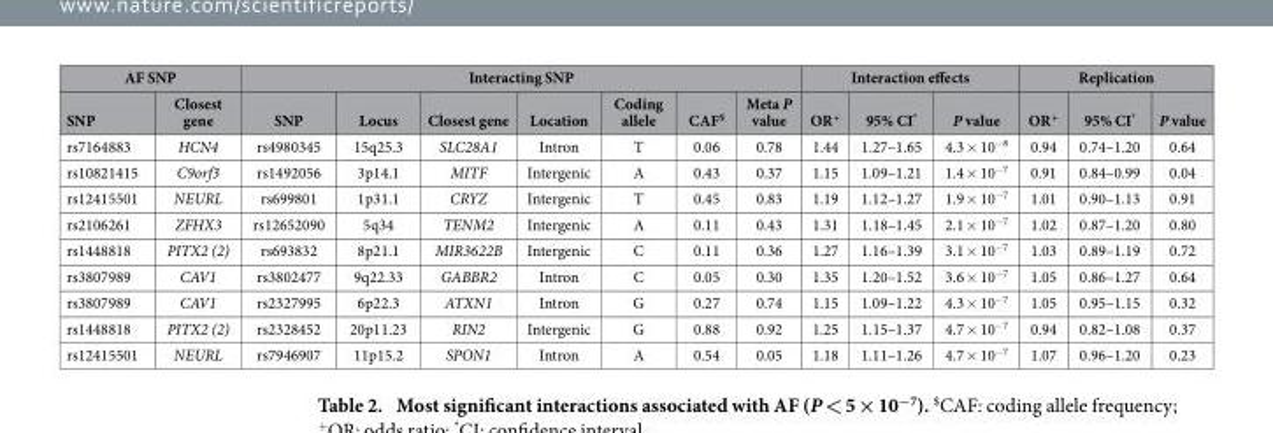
<table><thead><tr><td colspan="2">AF SNP</td><td colspan="7">Interacting SNP</td><td colspan="3">Interaction effects</td><td colspan="3">Replication</td></tr><tr><td>SNP</td><td>Closest gene</td><td>SNP</td><td>Locus</td><td>Closest gene</td><td>Location</td><td>Coding allele</td><td>CAF$</td><td>Meta P value</td><td>OR<sup>+</sup></td><td>95% CI*</td><td>P value</td><td>OR<sup>+</sup></td><td>95% CI*</td><td>P value</td></tr></thead><tbody><tr><td>rs7164883</td><td>HCN4</td><td>rs4980345</td><td>15q25.3</td><td>SLC28A1</td><td>Intron</td><td>T</td><td>0.06</td><td>0.78</td><td>1.44</td><td>1.27–1.65</td><td>4.3 × 10<sup>−8</sup></td><td>0.94</td><td>0.74–1.20</td><td>0.64</td></tr><tr><td>rs10821415</td><td>C9orf3</td><td>rs1492056</td><td>3p14.1</td><td>MITF</td><td>Intergenic</td><td>A</td><td>0.43</td><td>0.37</td><td>1.15</td><td>1.09–1.21</td><td>1.4 × 10<sup>−7</sup></td><td>0.91</td><td>0.84–0.99</td><td>0.04</td></tr><tr><td>rs12415501</td><td>NEURL</td><td>rs699801</td><td>1p31.1</td><td>CRYZ</td><td>Intergenic</td><td>T</td><td>0.45</td><td>0.83</td><td>1.19</td><td>1.12–1.27</td><td>1.9 × 10<sup>−7</sup></td><td>1.01</td><td>0.90–1.13</td><td>0.91</td></tr><tr><td>rs2106261</td><td>ZFHX3</td><td>rs12652090</td><td>5q34</td><td>TENM2</td><td>Intergenic</td><td>A</td><td>0.11</td><td>0.43</td><td>1.31</td><td>1.18–1.45</td><td>2.1 × 10<sup>−7</sup></td><td>1.02</td><td>0.87–1.20</td><td>0.80</td></tr><tr><td>rs1448818</td><td>PITX2 (2)</td><td>rs693832</td><td>8p21.1</td><td>MIR3622B</td><td>Intergenic</td><td>C</td><td>0.11</td><td>0.36</td><td>1.27</td><td>1.16–1.39</td><td>3.1 × 10<sup>−7</sup></td><td>1.03</td><td>0.89–1.19</td><td>0.72</td></tr><tr><td>rs3807989</td><td>CAV1</td><td>rs3802477</td><td>9q22.33</td><td>GABBR2</td><td>Intron</td><td>C</td><td>0.05</td><td>0.30</td><td>1.35</td><td>1.20–1.52</td><td>3.6 × 10<sup>−7</sup></td><td>1.05</td><td>0.86–1.27</td><td>0.64</td></tr><tr><td>rs3807989</td><td>CAV1</td><td>rs2327995</td><td>6p22.3</td><td>ATXN1</td><td>Intron</td><td>G</td><td>0.27</td><td>0.74</td><td>1.15</td><td>1.09–1.22</td><td>4.3 × 10<sup>−7</sup></td><td>1.05</td><td>0.95–1.15</td><td>0.32</td></tr><tr><td>rs1448818</td><td>PITX2 (2)</td><td>rs2328452</td><td>20p11.23</td><td>RIN2</td><td>Intergenic</td><td>G</td><td>0.88</td><td>0.92</td><td>1.25</td><td>1.15–1.37</td><td>4.7 × 10<sup>−7</sup></td><td>0.94</td><td>0.82–1.08</td><td>0.37</td></tr><tr><td>rs12415501</td><td>NEURL</td><td>rs7946907</td><td>11p15.2</td><td>SPON1</td><td>Intron</td><td>A</td><td>0.54</td><td>0.05</td><td>1.18</td><td>1.11–1.26</td><td>4.7 × 10<sup>−7</sup></td><td>1.07</td><td>0.96–1.20</td><td>0.23</td></tr></tbody></table>